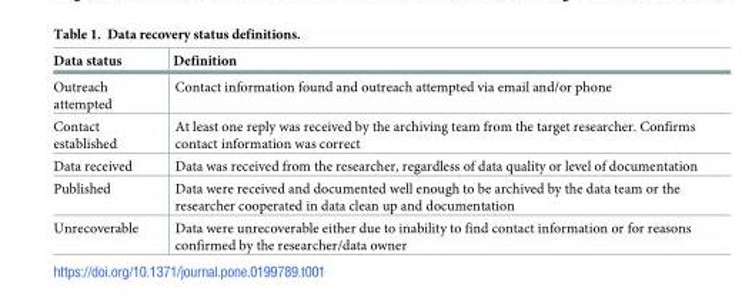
<table><thead><tr><td>Data status</td><td>Definition</td></tr></thead><tbody><tr><td>Outreach attempted</td><td>Contact information found and outreach attempted via email and/or phone</td></tr><tr><td>Contact established</td><td>At least one reply was received by the archiving team from the target researcher. Confirms contact information was correct</td></tr><tr><td>Data received</td><td>Data was received from the researcher, regardless of data quality or level of documentation</td></tr><tr><td>Published</td><td>Data were received and documented well enough to be archived by the data team or the researcher cooperated in data clean up and documentation</td></tr><tr><td>Unrecoverable</td><td>Data were unrecoverable either due to inability to find contact information or for reasons confirmed by the researcher/data owner</td></tr></tbody></table>